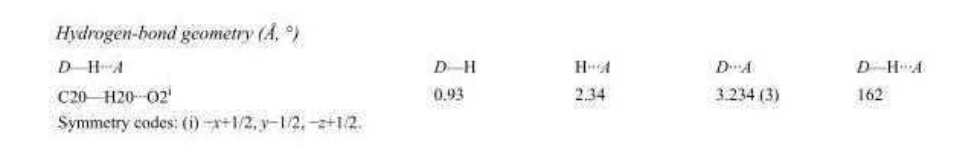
<table><tbody><tr><td>D—H···A</td><td>D—H</td><td>H···A</td><td>D···A</td><td>D—H···A</td></tr><tr><td>C20—H20···O2<sup>i</sup></td><td>0.93</td><td>2.34</td><td>3.234 (3)</td><td>162</td></tr></tbody></table>